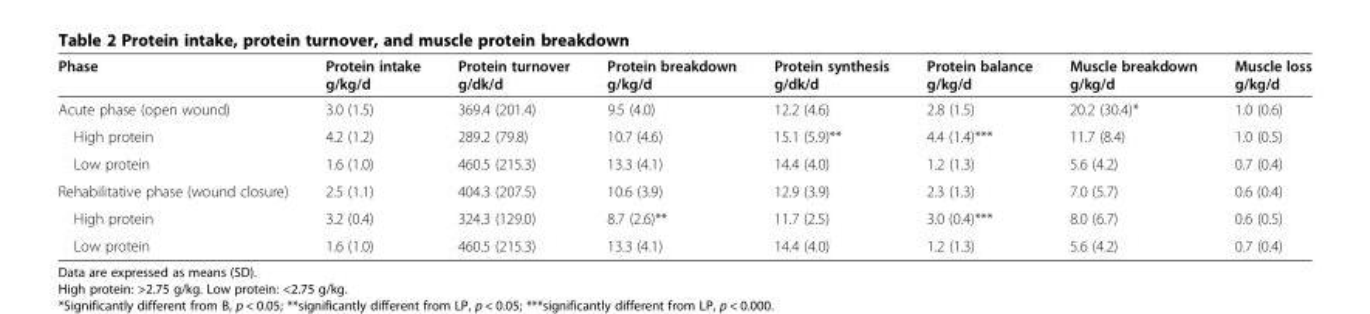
<table><thead><tr><td>Phase</td><td>Protein intake g/kg/d</td><td>Protein turnover g/dk/d</td><td>Protein breakdown g/kg/d</td><td>Protein synthesis g/dk/d</td><td>Protein balance g/kg/d</td><td>Muscle breakdown g/kg/d</td><td>Muscle loss g/kg/d</td></tr></thead><tbody><tr><td>Acute phase (open wound)</td><td>3.0 (1.5)</td><td>369.4 (201.4)</td><td>9.5 (4.0)</td><td>12.2 (4.6)</td><td>2.8 (1.5)</td><td>20.2 (30.4)*</td><td>1.0 (0.6)</td></tr><tr><td>High protein</td><td>4.2 (1.2)</td><td>289.2 (79.8)</td><td>10.7 (4.6)</td><td>15.1 (5.9)**</td><td>4.4 (1.4)***</td><td>11.7 (8.4)</td><td>1.0 (0.5)</td></tr><tr><td>Low protein</td><td>1.6 (1.0)</td><td>460.5 (215.3)</td><td>13.3 (4.1)</td><td>14.4 (4.0)</td><td>1.2 (1.3)</td><td>5.6 (4.2)</td><td>0.7 (0.4)</td></tr><tr><td>Rehabilitative phase (wound closure)</td><td>2.5 (1.1)</td><td>404.3 (207.5)</td><td>10.6 (3.9)</td><td>12.9 (3.9)</td><td>2.3 (1.3)</td><td>7.0 (5.7)</td><td>0.6 (0.4)</td></tr><tr><td>High protein</td><td>3.2 (0.4)</td><td>324.3 (129.0)</td><td>8.7 (2.6)**</td><td>11.7 (2.5)</td><td>3.0 (0.4)***</td><td>8.0 (6.7)</td><td>0.6 (0.5)</td></tr><tr><td>Low protein</td><td>1.6 (1.0)</td><td>460.5 (215.3)</td><td>13.3 (4.1)</td><td>14.4 (4.0)</td><td>1.2 (1.3)</td><td>5.6 (4.2)</td><td>0.7 (0.4)</td></tr></tbody></table>